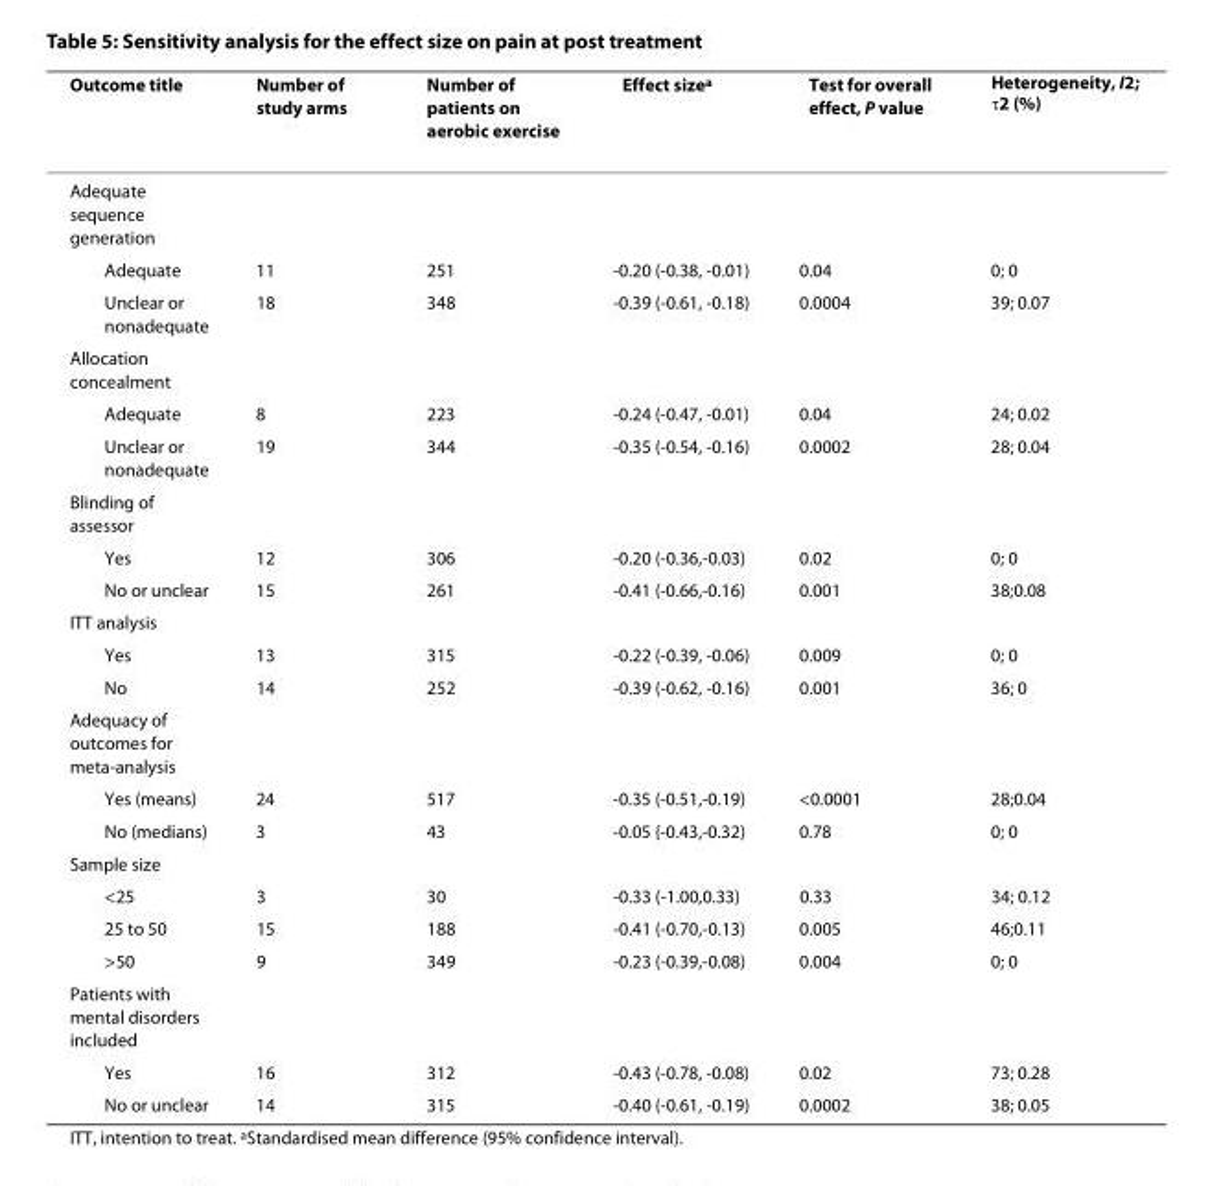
<table><thead><tr><td>Outcome title</td><td>Number of study arms</td><td>Number of patients on aerobic exercise</td><td>Effect size<sup>a</sup></td><td>Test for overall effect, P value</td><td>Heterogeneity, I<sup>2</sup>; τ<sup>2</sup> (%)</td></tr></thead><tbody><tr><td colspan="6">Adequate sequence generation</td></tr><tr><td>Adequate</td><td>11</td><td>251</td><td>-0.20 (-0.38, -0.01)</td><td>0.04</td><td>0; 0</td></tr><tr><td>Unclear or nonadequate</td><td>18</td><td>348</td><td>-0.39 (-0.61, -0.18)</td><td>0.0004</td><td>39; 0.07</td></tr><tr><td colspan="6">Allocation concealment</td></tr><tr><td>Adequate</td><td>8</td><td>223</td><td>-0.24 (-0.47, -0.01)</td><td>0.04</td><td>24; 0.02</td></tr><tr><td>Unclear or nonadequate</td><td>19</td><td>344</td><td>-0.35 (-0.54, -0.16)</td><td>0.0002</td><td>28; 0.04</td></tr><tr><td colspan="6">Blinding of assessor</td></tr><tr><td>Yes</td><td>12</td><td>306</td><td>-0.20 (-0.36,-0.03)</td><td>0.02</td><td>0; 0</td></tr><tr><td>No or unclear</td><td>15</td><td>261</td><td>-0.41 (-0.66,-0.16)</td><td>0.001</td><td>38;0.08</td></tr><tr><td colspan="6">ITT analysis</td></tr><tr><td>Yes</td><td>13</td><td>315</td><td>-0.22 (-0.39, -0.06)</td><td>0.009</td><td>0; 0</td></tr><tr><td>No</td><td>14</td><td>252</td><td>-0.39 (-0.62, -0.16)</td><td>0.001</td><td>36; 0</td></tr><tr><td colspan="6">Adequacy of outcomes for meta-analysis</td></tr><tr><td>Yes (means)</td><td>24</td><td>517</td><td>-0.35 (-0.51,-0.19)</td><td>&lt;0.0001</td><td>28;0.04</td></tr><tr><td>No (medians)</td><td>3</td><td>43</td><td>-0.05 {-0.43,-0.32)</td><td>0.78</td><td>0; 0</td></tr><tr><td colspan="6">Sample size</td></tr><tr><td>&lt;25</td><td>3</td><td>30</td><td>-0.33 (-1.00,0.33)</td><td>0.33</td><td>34; 0.12</td></tr><tr><td>25 to 50</td><td>15</td><td>188</td><td>-0.41 (-0.70,-0.13)</td><td>0.005</td><td>46;0.11</td></tr><tr><td>&gt;50</td><td>9</td><td>349</td><td>-0.23 (-0.39,-0.08)</td><td>0.004</td><td>0; 0</td></tr><tr><td colspan="6">Patients with mental disorders included</td></tr><tr><td>Yes</td><td>16</td><td>312</td><td>-0.43 (-0.78, -0.08)</td><td>0.02</td><td>73; 0.28</td></tr><tr><td>No or unclear</td><td>14</td><td>315</td><td>-0.40 (-0.61, -0.19)</td><td>0.0002</td><td>38; 0.05</td></tr></tbody></table>